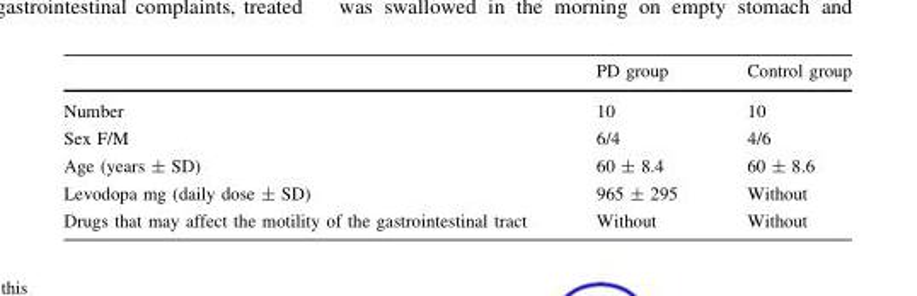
<table><thead><tr><td></td><td>PD group</td><td>Control group</td></tr></thead><tbody><tr><td>Number</td><td>10</td><td>10</td></tr><tr><td>Sex F/M</td><td>6/4</td><td>4/6</td></tr><tr><td>Age (years ± SD)</td><td>60 ± 8.4</td><td>60 ± 8.6</td></tr><tr><td>Levodopa mg (daily dose ± SD)</td><td>965 ± 295</td><td>Without</td></tr><tr><td>Drugs that may affect the motility of the gastrointestinal tract</td><td>Without</td><td>Without</td></tr></tbody></table>